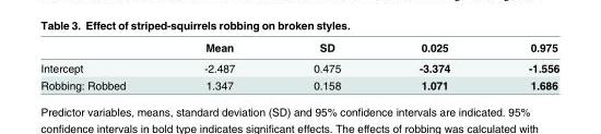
<table><thead><tr><td></td><td>Mean</td><td>SD</td><td>0.025</td><td>0.975</td></tr></thead><tbody><tr><td>Intercept</td><td>-2.487</td><td>0.475</td><td>-3.374</td><td>-1.556</td></tr><tr><td>Robbing: Robbed</td><td>1.347</td><td>0.158</td><td>1.071</td><td>1.686</td></tr></tbody></table>